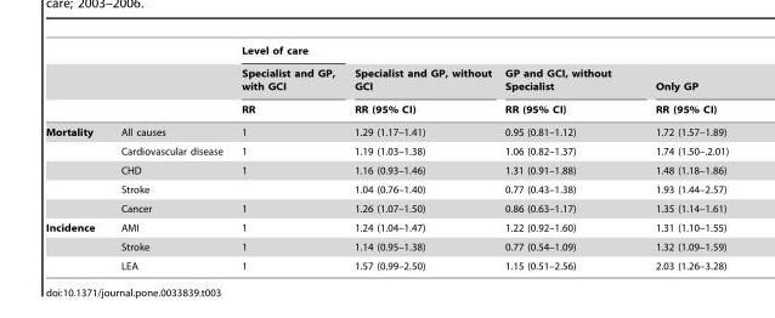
<table><thead><tr><td rowspan="3"></td><td rowspan="3"></td><td rowspan="3">Level of care Specialist and GP, with GCI RR</td><td rowspan="3">Specialist and GP, without GCI RR (95% CI)</td><td rowspan="3">GP and GCI, without Specialist RR (95% CI)</td><td rowspan="3">Only GP RR (95% CI)</td></tr><tr></tr><tr></tr></thead><tbody><tr><td rowspan="5">Mortality</td><td>All causes</td><td>1</td><td>1.29 (1.17–1.41)</td><td>0.95 (0.81–1.12)</td><td>1.72 (1.57–1.89)</td></tr><tr><td>Cardiovascular disease</td><td>1</td><td>1.19 (1.03–1.38)</td><td>1.06 (0.82–1.37)</td><td>1.74 (1.50–.2.01)</td></tr><tr><td>CHD</td><td>1</td><td>1.16 (0.93–1.46)</td><td>1.31 (0.91–1.88)</td><td>1.48 (1.18–1.86)</td></tr><tr><td>Stroke</td><td></td><td>1.04 (0.76–1.40)</td><td>0.77 (0.43–1.38)</td><td>1.93 (1.44–2.57)</td></tr><tr><td>Cancer</td><td>1</td><td>1.26 (1.07–1.50)</td><td>0.86 (0.63–1.17)</td><td>1.35 (1.14–1.61)</td></tr><tr><td rowspan="3">Incidence</td><td>AMI</td><td>1</td><td>1.24 (1.04–1.47)</td><td>1.22 (0.92–1.60)</td><td>1.31 (1.10–1.55)</td></tr><tr><td>Stroke</td><td>1</td><td>1.14 (0.95–1.38)</td><td>0.77 (0.54–1.09)</td><td>1.32 (1.09–1.59)</td></tr><tr><td>LEA</td><td>1</td><td>1.57 (0.99–2.50)</td><td>1.15 (0.51–2.56)</td><td>2.03 (1.26–3.28)</td></tr></tbody></table>